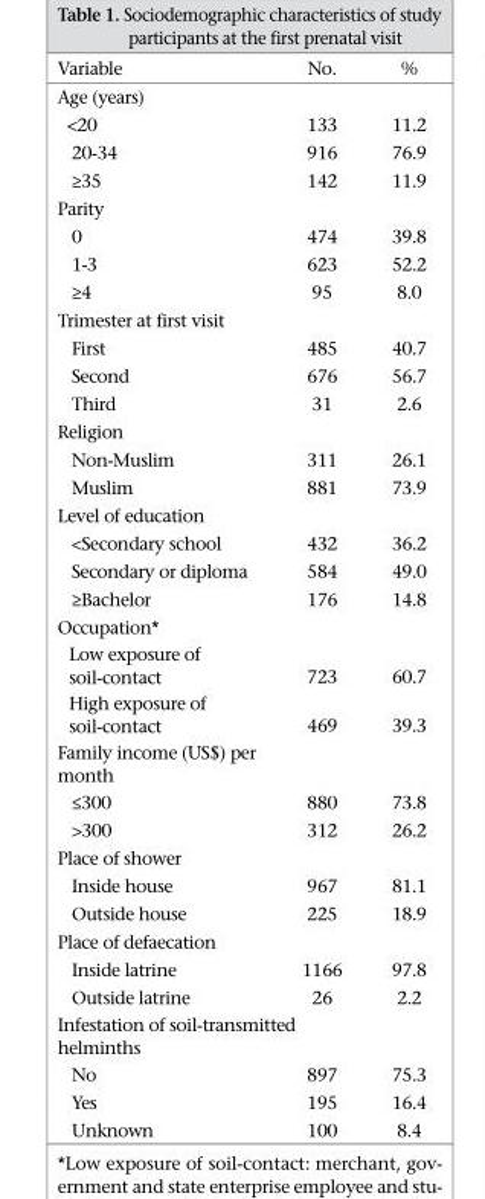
<table><thead><tr><td>Variable</td><td>No.</td><td>%</td></tr></thead><tbody><tr><td colspan="3">Age (years)</td></tr><tr><td>&lt;20</td><td>133</td><td>11.2</td></tr><tr><td>20-34</td><td>916</td><td>76.9</td></tr><tr><td>≥35</td><td>142</td><td>11.9</td></tr><tr><td colspan="3">Parity</td></tr><tr><td>0</td><td>474</td><td>39.8</td></tr><tr><td>1-3</td><td>623</td><td>52.2</td></tr><tr><td>≥4</td><td>95</td><td>8.0</td></tr><tr><td colspan="3">Trimester at first visit</td></tr><tr><td>First</td><td>485</td><td>40.7</td></tr><tr><td>Second</td><td>676</td><td>56.7</td></tr><tr><td>Third</td><td>31</td><td>2.6</td></tr><tr><td colspan="3">Religion</td></tr><tr><td>Non-Muslim</td><td>311</td><td>26.1</td></tr><tr><td>Muslim</td><td>881</td><td>73.9</td></tr><tr><td colspan="3">Level of education</td></tr><tr><td>&lt;Secondary school</td><td>432</td><td>36.2</td></tr><tr><td>Secondary or diploma</td><td>584</td><td>49.0</td></tr><tr><td>≥Bachelor</td><td>176</td><td>14.8</td></tr><tr><td colspan="3">Occupation*</td></tr><tr><td>Low exposure of soil-contact</td><td>723</td><td>60.7</td></tr><tr><td>High exposure of soil-contact</td><td>469</td><td>39.3</td></tr><tr><td colspan="3">Family income (US$) per month</td></tr><tr><td>≤300</td><td>880</td><td>73.8</td></tr><tr><td>&gt;300</td><td>312</td><td>26.2</td></tr><tr><td colspan="3">Place of shower</td></tr><tr><td>Inside house</td><td>967</td><td>81.1</td></tr><tr><td>Outside house</td><td>225</td><td>18.9</td></tr><tr><td colspan="3">Place of defaecation</td></tr><tr><td>Inside latrine</td><td>1166</td><td>97.8</td></tr><tr><td>Outside latrine</td><td>26</td><td>2.2</td></tr><tr><td colspan="3">Infestation of soil-transmitted helminths</td></tr><tr><td>No</td><td>897</td><td>75.3</td></tr><tr><td>Yes</td><td>195</td><td>16.4</td></tr><tr><td>Unknown</td><td>100</td><td>8.4</td></tr></tbody></table>